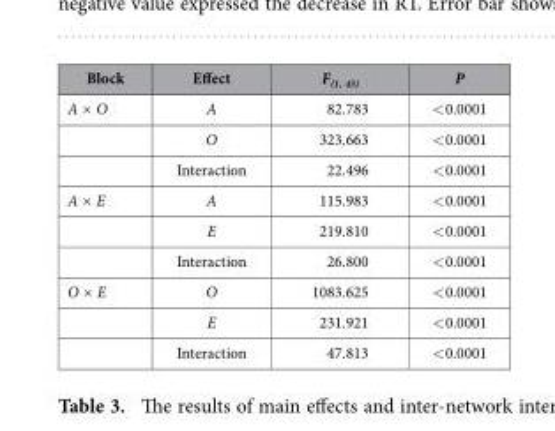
<table><thead><tr><td>Block</td><td>Effect</td><td>F<sub>(1, 43)</sub></td><td>P</td></tr></thead><tbody><tr><td rowspan="3">A × O</td><td>A</td><td>82.783</td><td>&lt; 0.0001</td></tr><tr><td>O</td><td>323.663</td><td>&lt; 0.0001</td></tr><tr><td>Interaction</td><td>22.496</td><td>&lt; 0.0001</td></tr><tr><td rowspan="3">A × E</td><td>A</td><td>115.983</td><td>&lt; 0.0001</td></tr><tr><td>E</td><td>219.810</td><td>&lt; 0.0001</td></tr><tr><td>Interaction</td><td>26.800</td><td>&lt; 0.0001</td></tr><tr><td rowspan="3">O × E</td><td>O</td><td>1083.625</td><td>&lt; 0.0001</td></tr><tr><td>E</td><td>231.921</td><td>&lt; 0.0001</td></tr><tr><td>Interaction</td><td>47.813</td><td>&lt; 0.0001</td></tr></tbody></table>